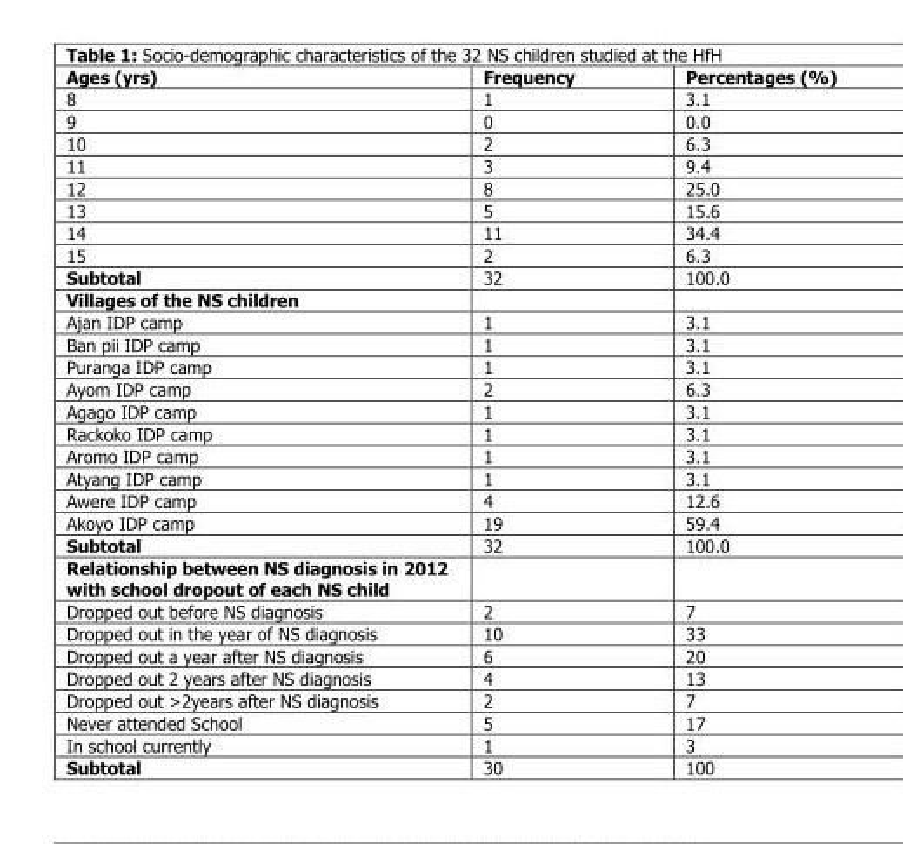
<table><thead><tr><td>Ages (yrs)</td><td>Frequency</td><td>Percentages (%)</td></tr></thead><tbody><tr><td>8</td><td>1</td><td>3.1</td></tr><tr><td>9</td><td>0</td><td>0.0</td></tr><tr><td>10</td><td>2</td><td>6.3</td></tr><tr><td>11</td><td>3</td><td>9.4</td></tr><tr><td>12</td><td>8</td><td>25.0</td></tr><tr><td>13</td><td>5</td><td>15.6</td></tr><tr><td>14</td><td>11</td><td>34.4</td></tr><tr><td>15</td><td>2</td><td>6.3</td></tr><tr><td>Subtotal</td><td>32</td><td>100.0</td></tr><tr><td colspan="3">Villages of the NS children</td></tr><tr><td>Ajan IDP camp</td><td>1</td><td>3.1</td></tr><tr><td>Ban pii IDP camp</td><td>1</td><td>3.1</td></tr><tr><td>Puranga IDP camp</td><td>1</td><td>3.1</td></tr><tr><td>Ayom IDP camp</td><td>2</td><td>6.3</td></tr><tr><td>Agago IDP camp</td><td>1</td><td>3.1</td></tr><tr><td>Rackoko IDP camp</td><td>1</td><td>3.1</td></tr><tr><td>Aromo IDP camp</td><td>1</td><td>3.1</td></tr><tr><td>Atyang IDP camp</td><td>1</td><td>3.1</td></tr><tr><td>Awere IDP camp</td><td>4</td><td>12.6</td></tr><tr><td>Akoyo IDP camp</td><td>19</td><td>59.4</td></tr><tr><td>Subtotal</td><td>32</td><td>100.0</td></tr><tr><td colspan="3">Relationship between NS diagnosis in 2012 with school dropout of each NS child</td></tr><tr><td>Dropped out before NS diagnosis</td><td>2</td><td>7</td></tr><tr><td>Dropped out in the year of NS diagnosis</td><td>10</td><td>33</td></tr><tr><td>Dropped out a year after NS diagnosis</td><td>6</td><td>20</td></tr><tr><td>Dropped out 2 years after NS diagnosis</td><td>4</td><td>13</td></tr><tr><td>Dropped out &gt;2years after NS diagnosis</td><td>2</td><td>7</td></tr><tr><td>Never attended School</td><td>5</td><td>17</td></tr><tr><td>In school currently</td><td>1</td><td>3</td></tr><tr><td>Subtotal</td><td>30</td><td>100</td></tr></tbody></table>